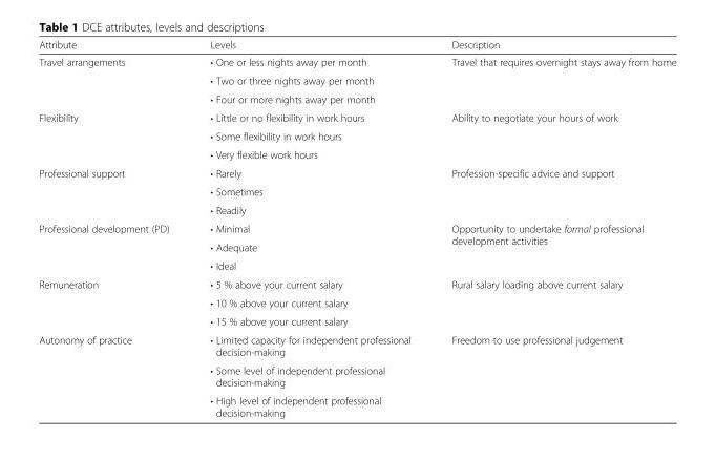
<table><thead><tr><td>Attribute</td><td>Levels</td><td>Description</td></tr></thead><tbody><tr><td rowspan="3">Travel arrangements</td><td>• One or less nights away per month</td><td rowspan="3">Travel that requires overnight stays away from home</td></tr><tr><td>• Two or three nights away per month</td></tr><tr><td>• Four or more nights away per month</td></tr><tr><td rowspan="3">Flexibility</td><td>• Little or no flexibility in work hours</td><td rowspan="3">Ability to negotiate your hours of work</td></tr><tr><td>• Some flexibility in work hours</td></tr><tr><td>• Very flexible work hours</td></tr><tr><td rowspan="3">Professional support</td><td>• Rarely</td><td rowspan="3">Profession-specific advice and support</td></tr><tr><td>• Sometimes</td></tr><tr><td>• Readily</td></tr><tr><td rowspan="3">Professional development (PD)</td><td>• Minimal</td><td rowspan="3">Opportunity to undertake formal professional development activities</td></tr><tr><td>• Adequate</td></tr><tr><td>• Ideal</td></tr><tr><td rowspan="3">Remuneration</td><td>• 5 % above your current salary</td><td rowspan="3">Rural salary loading above current salary</td></tr><tr><td>• 10 % above your current salary</td></tr><tr><td>• 15 % above your current salary</td></tr><tr><td rowspan="3">Autonomy of practice</td><td>• Limited capacity for independent professional decision-making</td><td rowspan="3">Freedom to use professional judgement</td></tr><tr><td>• Some level of independent professional decision-making</td></tr><tr><td>• High level of independent professional decision-making</td></tr></tbody></table>